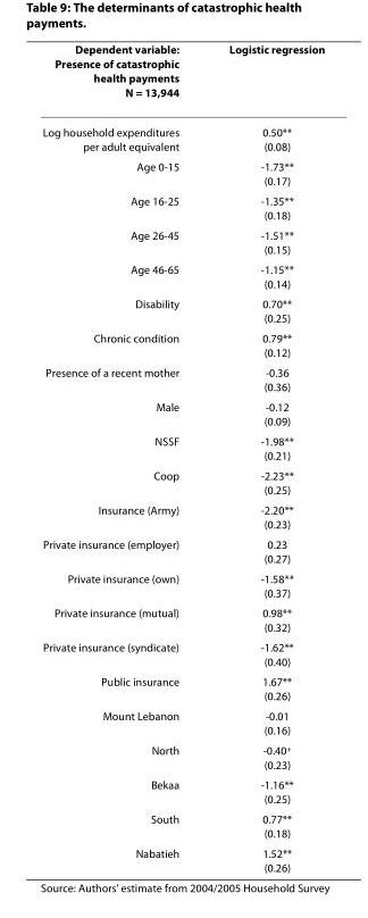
<table><thead><tr><td>Dependent variable: Presence of catastrophic health payments N = 13,944</td><td>Logistic regression</td></tr></thead><tbody><tr><td>Log household expenditures per adult equivalent</td><td>0.50** (0.08)</td></tr><tr><td>Age 0-15</td><td>-1.73** (0.17)</td></tr><tr><td>Age 16-25</td><td>-1.35** (0.18)</td></tr><tr><td>Age 26-45</td><td>-1.51** (0.15)</td></tr><tr><td>Age 46-65</td><td>-1.15** (0.14)</td></tr><tr><td>Disability</td><td>0.70** (0.25)</td></tr><tr><td>Chronic condition</td><td>0.79** (0.12)</td></tr><tr><td>Presence of a recent mother</td><td>-0.36 (0.36)</td></tr><tr><td>Male</td><td>-0.12 (0.09)</td></tr><tr><td>NSSF</td><td>-1.98** (0.21)</td></tr><tr><td>Coop</td><td>-2.23** (0.25)</td></tr><tr><td>Insurance (Army)</td><td>-2.20** (0.23)</td></tr><tr><td>Private insurance (employer)</td><td>0.23 (0.27)</td></tr><tr><td>Private insurance (own)</td><td>-1.58** (0.37)</td></tr><tr><td>Private insurance (mutual)</td><td>0.98** (0.32)</td></tr><tr><td>Private insurance (syndicate)</td><td>-1.62** (0.40)</td></tr><tr><td>Public insurance</td><td>1.67** (0.26)</td></tr><tr><td>Mount Lebanon</td><td>-0.01 (0.16)</td></tr><tr><td>North</td><td>-0.40<sup>+</sup> (0.23)</td></tr><tr><td>Bekaa</td><td>-1.16** (0.25)</td></tr><tr><td>South</td><td>0.77** (0.18)</td></tr><tr><td>Nabatieh</td><td>1.52** (0.26)</td></tr></tbody></table>